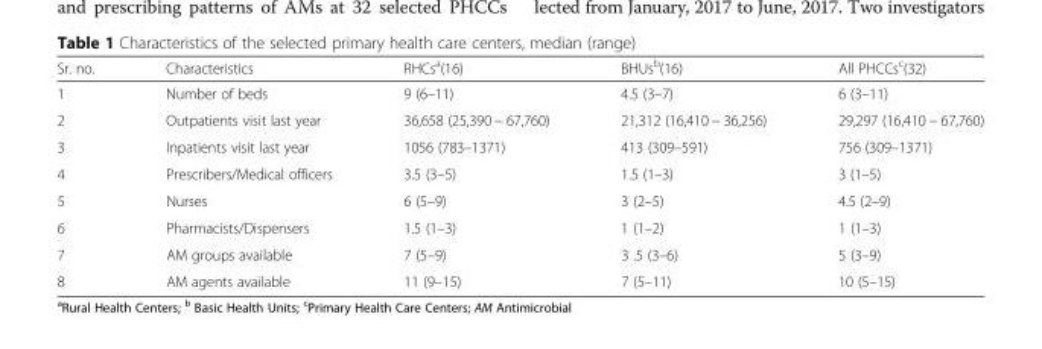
<table><thead><tr><td>Sr. no.</td><td>Characteristics</td><td>RHCs<sup>a</sup>(16)</td><td>BHUs<sup>b</sup>(16)</td><td>All PHCCs<sup>c</sup>(32)</td></tr></thead><tbody><tr><td>1</td><td>Number of beds</td><td>9 (6–11)</td><td>4.5 (3–7)</td><td>6 (3–11)</td></tr><tr><td>2</td><td>Outpatients visit last year</td><td>36,658 (25,390 − 67,760)</td><td>21,312 (16,410 − 36,256)</td><td>29,297 (16,410 − 67,760)</td></tr><tr><td>3</td><td>Inpatients visit last year</td><td>1056 (783–1371)</td><td>413 (309–591)</td><td>756 (309–1371)</td></tr><tr><td>4</td><td>Prescribers/Medical officers</td><td>3.5 (3–5)</td><td>1.5 (1–3)</td><td>3 (1–5)</td></tr><tr><td>5</td><td>Nurses</td><td>6 (5–9)</td><td>3 (2–5)</td><td>4.5 (2–9)</td></tr><tr><td>6</td><td>Pharmacists/Dispensers</td><td>1.5 (1–3)</td><td>1 (1–2)</td><td>1 (1–3)</td></tr><tr><td>7</td><td>AM groups available</td><td>7 (5–9)</td><td>3 .5 (3–6)</td><td>5 (3–9)</td></tr><tr><td>8</td><td>AM agents available</td><td>11 (9–15)</td><td>7 (5–11)</td><td>10 (5–15)</td></tr></tbody></table>